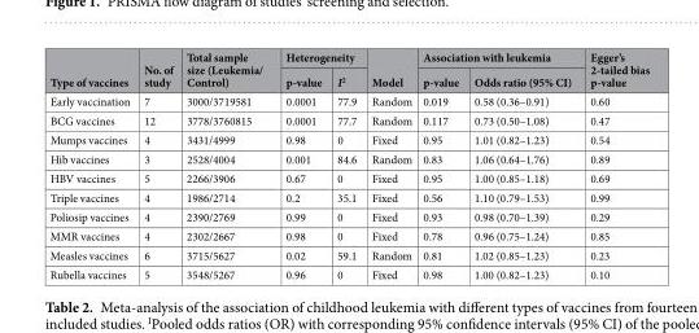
<table><thead><tr><td rowspan="2">Type of vaccines</td><td rowspan="2">No. of study</td><td rowspan="2">Total sample size (Leukemia/ Control)</td><td colspan="2">Heterogeneity</td><td rowspan="2">Model</td><td colspan="2">Association with leukemia</td><td rowspan="2">Egger’s 2-tailed bias p-value</td></tr><tr><td>p-value</td><td>I<sup>2</sup></td><td>p-value</td><td>Odds ratio (95% CI)</td></tr></thead><tbody><tr><td>Early vaccination</td><td>7</td><td>3000/3719581</td><td>0.0001</td><td>77.9</td><td>Random</td><td>0.019</td><td>0.58 (0.36–0.91)</td><td>0.60</td></tr><tr><td>BCG vaccines</td><td>12</td><td>3778/3760815</td><td>0.0001</td><td>77.7</td><td>Random</td><td>0.117</td><td>0.73 (0.50–1.08)</td><td>0.47</td></tr><tr><td>Mumps vaccines</td><td>4</td><td>3431/4999</td><td>0.98</td><td>0</td><td>Fixed</td><td>0.95</td><td>1.01 (0.82–1.23)</td><td>0.54</td></tr><tr><td>Hib vaccines</td><td>3</td><td>2528/4004</td><td>0.001</td><td>84.6</td><td>Random</td><td>0.83</td><td>1.06 (0.64–1.76)</td><td>0.89</td></tr><tr><td>HBV vaccines</td><td>5</td><td>2266/3906</td><td>0.67</td><td>0</td><td>Fixed</td><td>0.95</td><td>1.00 (0.85–1.18)</td><td>0.69</td></tr><tr><td>Triple vaccines</td><td>4</td><td>1986/2714</td><td>0.2</td><td>35.1</td><td>Fixed</td><td>0.56</td><td>1.10 (0.79–1.53)</td><td>0.99</td></tr><tr><td>Poliosip vaccines</td><td>4</td><td>2390/2769</td><td>0.99</td><td>0</td><td>Fixed</td><td>0.93</td><td>0.98 (0.70–1.39)</td><td>0.29</td></tr><tr><td>MMR vaccines</td><td>4</td><td>2302/2667</td><td>0.98</td><td>0</td><td>Fixed</td><td>0.78</td><td>0.96 (0.75–1.24)</td><td>0.85</td></tr><tr><td>Measles vaccines</td><td>6</td><td>3715/5627</td><td>0.02</td><td>59.1</td><td>Random</td><td>0.81</td><td>1.02 (0.85–1.23)</td><td>0.23</td></tr><tr><td>Rubella vaccines</td><td>5</td><td>3548/5267</td><td>0.96</td><td>0</td><td>Fixed</td><td>0.98</td><td>1.00 (0.82–1.23)</td><td>0.10</td></tr></tbody></table>